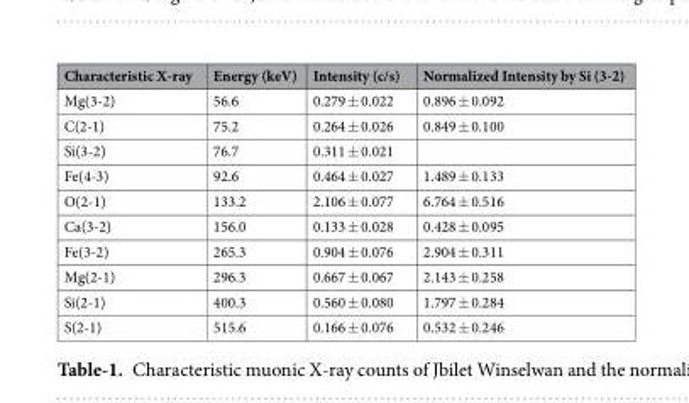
<table><thead><tr><td>Characteristic X-ray</td><td>Energy (keV)</td><td>Intensity (c/s)</td><td>Normalized Intensity by Si (3-2)</td></tr></thead><tbody><tr><td>Mg(3-2)</td><td>56.6</td><td>0.279 ± 0.022</td><td>0.896 ± 0.092</td></tr><tr><td>C(2-1)</td><td>75.2</td><td>0.264 ± 0.026</td><td>0.849 ± 0.100</td></tr><tr><td>Si(3-2)</td><td>76.7</td><td>0.311 ± 0.021</td><td></td></tr><tr><td>Fe(4-3)</td><td>92.6</td><td>0.464 ± 0.027</td><td>1.489 ± 0.133</td></tr><tr><td>O(2-1)</td><td>133.2</td><td>2.106 ± 0.077</td><td>6.764 ± 0.516</td></tr><tr><td>Ca(3-2)</td><td>156.0</td><td>0.133 ± 0.028</td><td>0.428 ± 0.095</td></tr><tr><td>Fe(3-2)</td><td>265.3</td><td>0.904 ± 0.076</td><td>2.904 ± 0.311</td></tr><tr><td>Mg(2-1)</td><td>296.3</td><td>0.667 ± 0.067</td><td>2.143 ± 0.258</td></tr><tr><td>Si(2-1)</td><td>400.3</td><td>0.560 ± 0.080</td><td>1.797 ± 0.284</td></tr><tr><td>S(2-1)</td><td>515.6</td><td>0.166 ± 0.076</td><td>0.532 ± 0.246</td></tr></tbody></table>